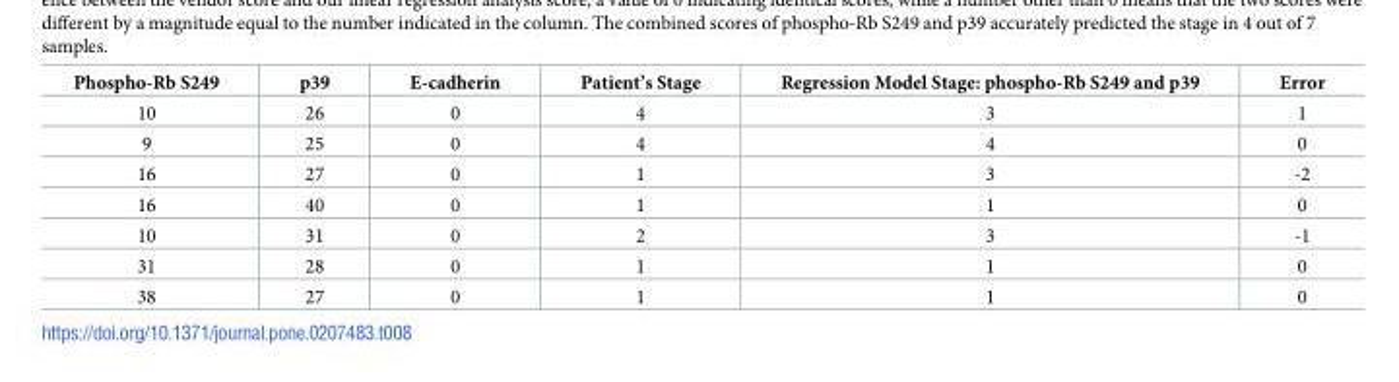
<table><thead><tr><td>Phospho-Rb S249</td><td>p39</td><td>E-cadherin</td><td>Patient’s Stage</td><td>Regression Model Stage: phospho-Rb S249 and p39</td><td>Error</td></tr></thead><tbody><tr><td>10</td><td>26</td><td>0</td><td>4</td><td>3</td><td>1</td></tr><tr><td>9</td><td>25</td><td>0</td><td>4</td><td>4</td><td>0</td></tr><tr><td>16</td><td>27</td><td>0</td><td>1</td><td>3</td><td>-2</td></tr><tr><td>16</td><td>40</td><td>0</td><td>1</td><td>1</td><td>0</td></tr><tr><td>10</td><td>31</td><td>0</td><td>2</td><td>3</td><td>-1</td></tr><tr><td>31</td><td>28</td><td>0</td><td>1</td><td>1</td><td>0</td></tr><tr><td>38</td><td>27</td><td>0</td><td>1</td><td>1</td><td>0</td></tr></tbody></table>